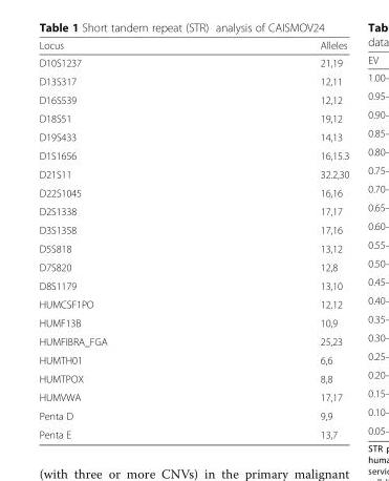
<table><thead><tr><td>Locus</td><td>Alleles</td></tr></thead><tbody><tr><td>D10S1237</td><td>21,19</td></tr><tr><td>D13S317</td><td>12,11</td></tr><tr><td>D16S539</td><td>12,12</td></tr><tr><td>D18S51</td><td>19,12</td></tr><tr><td>D19S433</td><td>14,13</td></tr><tr><td>D1S1656</td><td>16,15.3</td></tr><tr><td>D21S11</td><td>32.2,30</td></tr><tr><td>D22S1045</td><td>16,16</td></tr><tr><td>D2S1338</td><td>17,17</td></tr><tr><td>D3S1358</td><td>17,16</td></tr><tr><td>D5S818</td><td>13,12</td></tr><tr><td>D7S820</td><td>12,8</td></tr><tr><td>D8S1179</td><td>13,10</td></tr><tr><td>HUMCSF1PO</td><td>12,12</td></tr><tr><td>HUMF13B</td><td>10,9</td></tr><tr><td>HUMFIBRA_FGA</td><td>25,23</td></tr><tr><td>HUMTH01</td><td>6,6</td></tr><tr><td>HUMTPOX</td><td>8,8</td></tr><tr><td>HUMVWA</td><td>17,17</td></tr><tr><td>Penta D</td><td>9,9</td></tr><tr><td>Penta E</td><td>13,7</td></tr></tbody></table>